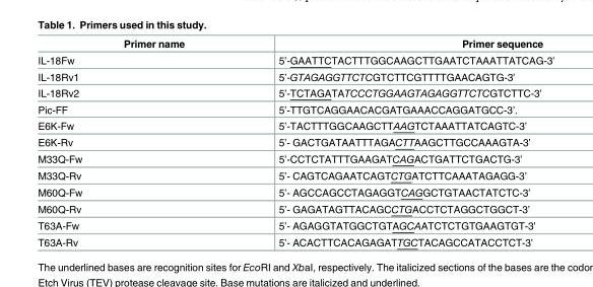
<table><thead><tr><td>Primer name</td><td>Primer sequence</td></tr></thead><tbody><tr><td>IL-18Fw</td><td>5’-GAATTCTACTTTGGCAAGCTTGAATCTAAATTATCAG-3’</td></tr><tr><td>IL-18Rv1</td><td>5’-GTAGAGGTTCTCGTCTTCGTTTTGAACAGTG-3’</td></tr><tr><td>IL-18Rv2</td><td>5’-TCTAGATATCCCTGGAAGTAGAGGTTCTCGTCTTC-3’</td></tr><tr><td>Pic-FF</td><td>5’-TTGTCAGGAACACGATGAAACCAGGATGCC-3’.</td></tr><tr><td>E6K-Fw</td><td>5’-TACTTTGGCAAGCTTAAGTCTAAATTATCAGTC-3’</td></tr><tr><td>E6K-Rv</td><td>5’- GACTGATAATTTAGACTTAAGCTTGCCAAAGTA-3’</td></tr><tr><td>M33Q-Fw</td><td>5’-CCTCTATTTGAAGATCAGACTGATTCTGACTG-3’</td></tr><tr><td>M33Q-Rv</td><td>5’- CAGTCAGAATCAGTCTGATCTTCAAATAGAGG-3’</td></tr><tr><td>M60Q-Fw</td><td>5’- AGCCAGCCTAGAGGTCAGGCTGTAACTATCTC-3’</td></tr><tr><td>M60Q-Rv</td><td>5’- GAGATAGTTACAGCCTGACCTCTAGGCTGGCT-3’</td></tr><tr><td>T63A-Fw</td><td>5’- AGAGGTATGGCTGTAGCAATCTCTGTGAAGTGT-3’</td></tr><tr><td>T63A-Rv</td><td>5’- ACACTTCACAGAGATTGCTACAGCCATACCTCT-3’</td></tr></tbody></table>